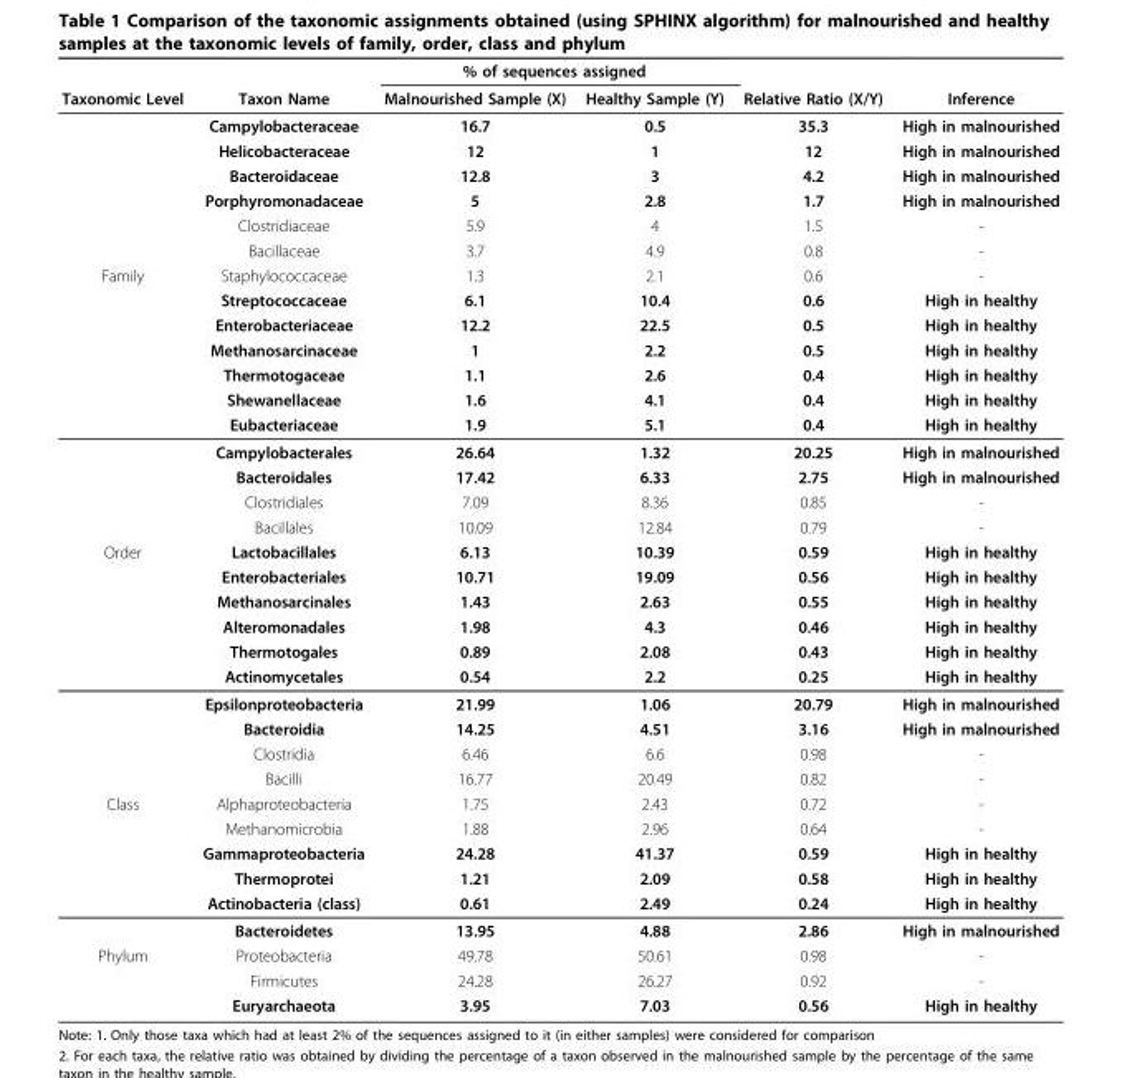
<table><thead><tr><td rowspan="2">Taxonomic Level</td><td rowspan="2">Taxon Name</td><td colspan="2">% of sequences assigned</td><td rowspan="2">Relative Ratio (X/Y)</td><td rowspan="2">Inference</td></tr><tr><td>Malnourished Sample (X)</td><td>Healthy Sample (Y)</td></tr></thead><tbody><tr><td></td><td>Campylobacteraceae</td><td>16.7</td><td>0.5</td><td>35.3</td><td>High in malnourished</td></tr><tr><td></td><td>Helicobacteraceae</td><td>12</td><td>1</td><td>12</td><td>High in malnourished</td></tr><tr><td></td><td>Bacteroidaceae</td><td>12.8</td><td>3</td><td>4.2</td><td>High in malnourished</td></tr><tr><td></td><td>Porphyromonadaceae</td><td>5</td><td>2.8</td><td>1.7</td><td>High in malnourished</td></tr><tr><td></td><td>Clostridiaceae</td><td>5.9</td><td>4</td><td>1.5</td><td>-</td></tr><tr><td></td><td>Bacillaceae</td><td>3.7</td><td>4.9</td><td>0.8</td><td>-</td></tr><tr><td rowspan="11">Family</td><td>Staphylococcaceae</td><td>1.3</td><td>2.1</td><td>0.6</td><td>-</td></tr><tr><td>Streptococcaceae</td><td>6.1</td><td>10.4</td><td>0.6</td><td>High in healthy</td></tr><tr><td>Enterobacteriaceae</td><td>12.2</td><td>22.5</td><td>0.5</td><td>High in healthy</td></tr><tr><td>Methanosarcinaceae</td><td>1</td><td>2.2</td><td>0.5</td><td>High in healthy</td></tr><tr><td>Thermotogaceae</td><td>1.1</td><td>2.6</td><td>0.4</td><td>High in healthy</td></tr><tr><td>Shewanellaceae</td><td>1.6</td><td>4.1</td><td>0.4</td><td>High in healthy</td></tr><tr><td>Eubacteriaceae</td><td>1.9</td><td>5.1</td><td>0.4</td><td>High in healthy</td></tr><tr><td>Campylobacterales</td><td>26.64</td><td>1.32</td><td>20.25</td><td>High in malnourished</td></tr><tr><td>Bacteroidales</td><td>17.42</td><td>6.33</td><td>2.75</td><td>High in malnourished</td></tr><tr><td>Clostridiales</td><td>7.09</td><td>8.36</td><td>0.85</td><td>-</td></tr><tr><td>Bacillales</td><td>10.09</td><td>12.84</td><td>0.79</td><td>-</td></tr><tr><td rowspan="10">Order</td><td>Lactobacillales</td><td>6.13</td><td>10.39</td><td>0.59</td><td>High in healthy</td></tr><tr><td>Enterobacteriales</td><td>10.71</td><td>19.09</td><td>0.56</td><td>High in healthy</td></tr><tr><td>Methanosarcinales</td><td>1.43</td><td>2.63</td><td>0.55</td><td>High in healthy</td></tr><tr><td>Alteromonadales</td><td>1.98</td><td>4.3</td><td>0.46</td><td>High in healthy</td></tr><tr><td>Thermotogales</td><td>0.89</td><td>2.08</td><td>0.43</td><td>High in healthy</td></tr><tr><td>Actinomycetales</td><td>0.54</td><td>2.2</td><td>0.25</td><td>High in healthy</td></tr><tr><td>Epsilonproteobacteria</td><td>21.99</td><td>1.06</td><td>20.79</td><td>High in malnourished</td></tr><tr><td>Bacteroidia</td><td>14.25</td><td>4.51</td><td>3.16</td><td>High in malnourished</td></tr><tr><td>Clostridia</td><td>6.46</td><td>6.6</td><td>0.98</td><td>-</td></tr><tr><td>Bacilli</td><td>16.77</td><td>20.49</td><td>0.82</td><td>-</td></tr><tr><td rowspan="6">Class</td><td>Alphaproteobacteria</td><td>1.75</td><td>2.43</td><td>0.72</td><td>-</td></tr><tr><td>Methanomicrobia</td><td>1.88</td><td>2.96</td><td>0.64</td><td>-</td></tr><tr><td>Gammaproteobacteria</td><td>24.28</td><td>41.37</td><td>0.59</td><td>High in healthy</td></tr><tr><td>Thermoprotei</td><td>1.21</td><td>2.09</td><td>0.58</td><td>High in healthy</td></tr><tr><td>Actinobacteria (class)</td><td>0.61</td><td>2.49</td><td>0.24</td><td>High in healthy</td></tr><tr><td>Bacteroidetes</td><td>13.95</td><td>4.88</td><td>2.86</td><td>High in malnourished</td></tr><tr><td rowspan="3">Phylum</td><td>Proteobacteria</td><td>49.78</td><td>50.61</td><td>0.98</td><td>-</td></tr><tr><td>Firmicutes</td><td>24.28</td><td>26.27</td><td>0.92</td><td>-</td></tr><tr><td>Euryarchaeota</td><td>3.95</td><td>7.03</td><td>0.56</td><td>High in healthy</td></tr></tbody></table>